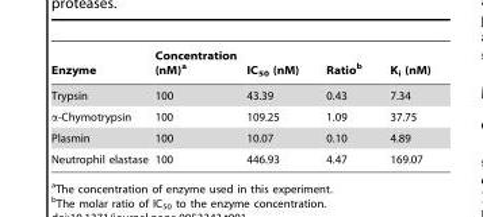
<table><thead><tr><td>Enzyme</td><td>Concentration (nM)<sup>a</sup></td><td>IC<sub>50</sub> (nM)</td><td>Ratio<sup>b</sup></td><td>K<sub>i</sub> (nM)</td></tr></thead><tbody><tr><td>Trypsin</td><td>100</td><td>43.39</td><td>0.43</td><td>7.34</td></tr><tr><td>α-Chymotrypsin</td><td>100</td><td>109.25</td><td>1.09</td><td>37.75</td></tr><tr><td>Plasmin</td><td>100</td><td>10.07</td><td>0.10</td><td>4.89</td></tr><tr><td>Neutrophil elastase</td><td>100</td><td>446.93</td><td>4.47</td><td>169.07</td></tr></tbody></table>